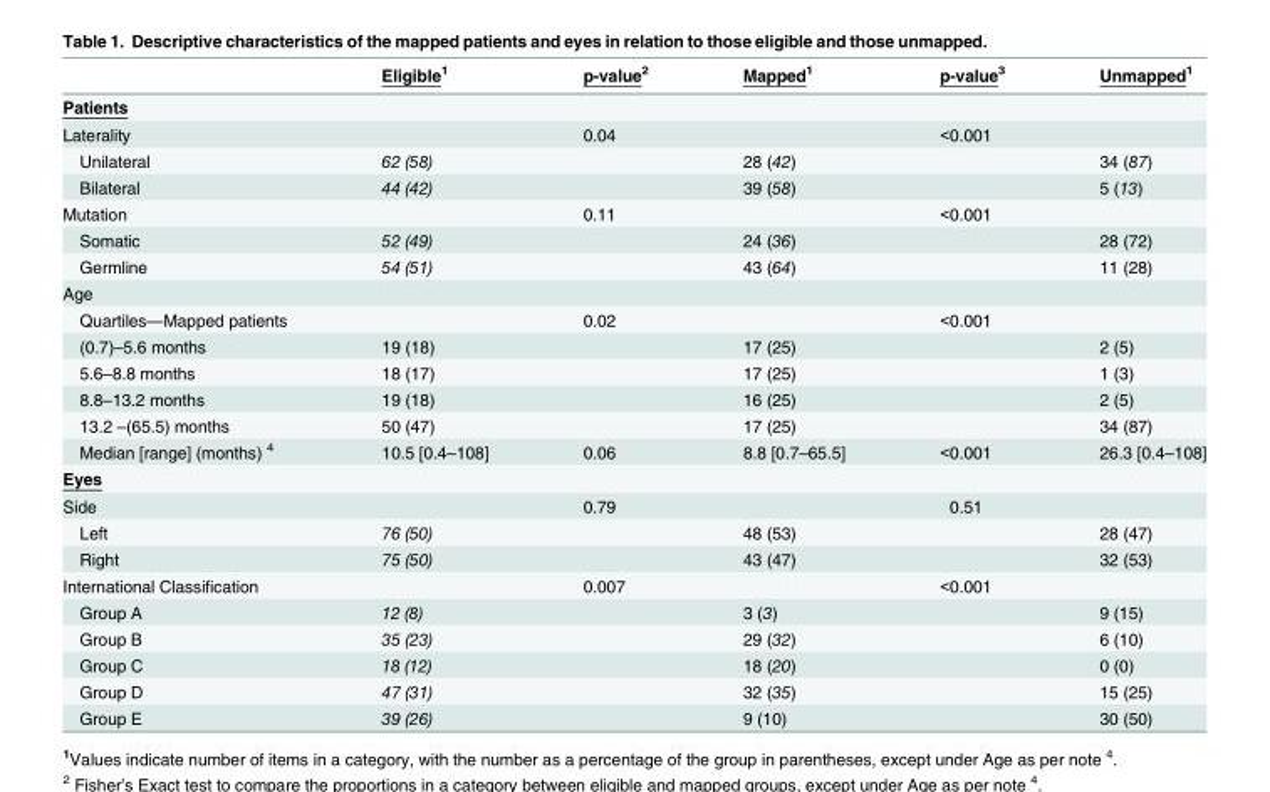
<table><thead><tr><td></td><td>Eligible<sup>1</sup></td><td>p-value<sup>2</sup></td><td>Mapped<sup>1</sup></td><td>p-value<sup>3</sup></td><td>Unmapped<sup>1</sup></td></tr></thead><tbody><tr><td colspan="6">Patients</td></tr><tr><td>Laterality</td><td></td><td>0.04</td><td></td><td>&lt;0.001</td><td></td></tr><tr><td>Unilateral</td><td>62 (58)</td><td></td><td>28 (42)</td><td></td><td>34 (87)</td></tr><tr><td>Bilateral</td><td>44 (42)</td><td></td><td>39 (58)</td><td></td><td>5 (13)</td></tr><tr><td>Mutation</td><td></td><td>0.11</td><td></td><td>&lt;0.001</td><td></td></tr><tr><td>Somatic</td><td>52 (49)</td><td></td><td>24 (36)</td><td></td><td>28 (72)</td></tr><tr><td>Germline</td><td>54 (51)</td><td></td><td>43 (64)</td><td></td><td>11 (28)</td></tr><tr><td colspan="6">Age</td></tr><tr><td>Quartiles—Mapped patients</td><td></td><td>0.02</td><td></td><td>&lt;0.001</td><td></td></tr><tr><td>(0.7)–5.6 months</td><td>19 (18)</td><td></td><td>17 (25)</td><td></td><td>2 (5)</td></tr><tr><td>5.6–8.8 months</td><td>18 (17)</td><td></td><td>17 (25)</td><td></td><td>1 (3)</td></tr><tr><td>8.8–13.2 months</td><td>19 (18)</td><td></td><td>16 (25)</td><td></td><td>2 (5)</td></tr><tr><td>13.2 –(65.5) months</td><td>50 (47)</td><td></td><td>17 (25)</td><td></td><td>34 (87)</td></tr><tr><td>Median [range] (months) <sup>4</sup></td><td>10.5 [0.4–108]</td><td>0.06</td><td>8.8 [0.7–65.5]</td><td>&lt;0.001</td><td>26.3 [0.4–108]</td></tr><tr><td colspan="6">Eyes</td></tr><tr><td>Side</td><td></td><td>0.79</td><td></td><td>0.51</td><td></td></tr><tr><td>Left</td><td>76 (50)</td><td></td><td>48 (53)</td><td></td><td>28 (47)</td></tr><tr><td>Right</td><td>75 (50)</td><td></td><td>43 (47)</td><td></td><td>32 (53)</td></tr><tr><td>International Classification</td><td></td><td>0.007</td><td></td><td>&lt;0.001</td><td></td></tr><tr><td>Group A</td><td>12 (8)</td><td></td><td>3 (3)</td><td></td><td>9 (15)</td></tr><tr><td>Group B</td><td>35 (23)</td><td></td><td>29 (32)</td><td></td><td>6 (10)</td></tr><tr><td>Group C</td><td>18 (12)</td><td></td><td>18 (20)</td><td></td><td>0 (0)</td></tr><tr><td>Group D</td><td>47 (31)</td><td></td><td>32 (35)</td><td></td><td>15 (25)</td></tr><tr><td>Group E</td><td>39 (26)</td><td></td><td>9 (10)</td><td></td><td>30 (50)</td></tr></tbody></table>